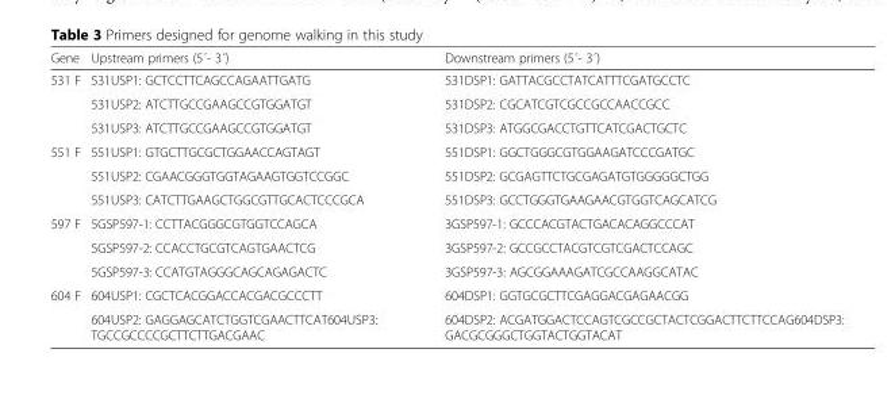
<table><thead><tr><td>Gene</td><td>Upstream primers (5´- 3´)</td><td>Downstream primers (5´- 3´)</td></tr></thead><tbody><tr><td rowspan="3">531 F</td><td>531USP1: GCTCCTTCAGCCAGAATTGATG</td><td>531DSP1: GATTACGCCTATCATTTCGATGCCTC</td></tr><tr><td>531USP2: ATCTTGCCGAAGCCGTGGATGT</td><td>531DSP2: CGCATCGTCGCCGCCAACCGCC</td></tr><tr><td>531USP3: ATCTTGCCGAAGCCGTGGATGT</td><td>531DSP3: ATGGCGACCTGTTCATCGACTGCTC</td></tr><tr><td rowspan="3">551 F</td><td>551USP1: GTGCTTGCGCTGGAACCAGTAGT</td><td>551DSP1: GGCTGGGCGTGGAAGATCCCGATGC</td></tr><tr><td>551USP2: CGAACGGGTGGTAGAAGTGGTCCGGC</td><td>551DSP2: GCGAGTTCTGCGAGATGTGGGGGCTGG</td></tr><tr><td>551USP3: CATCTTGAAGCTGGCGTTGCACTCCCGCA</td><td>551DSP3: GCCTGGGTGAAGAACGTGGTCAGCATCG</td></tr><tr><td rowspan="3">597 F</td><td>5GSP597-1: CCTTACGGGCGTGGTCCAGCA</td><td>3GSP597-1: GCCCACGTACTGACACAGGCCCAT</td></tr><tr><td>5GSP597-2: CCACCTGCGTCAGTGAACTCG</td><td>3GSP597-2: GCCGCCTACGTCGTCGACTCCAGC</td></tr><tr><td>5GSP597-3: CCATGTAGGGCAGCAGAGACTC</td><td>3GSP597-3: AGCGGAAAGATCGCCAAGGCATAC</td></tr><tr><td rowspan="2">604 F</td><td>604USP1: CGCTCACGGACCACGACGCCCTT</td><td>604DSP1: GGTGCGCTTCGAGGACGAGAACGG</td></tr><tr><td>604USP2: GAGGAGCATCTGGTCGAACTTCAT604USP3: TGCCGCCCCGCTTCTTGACGAAC</td><td>604DSP2: ACGATGGACTCCAGTCGCCGCTACTCGGACTTCTTCCAG604DSP3: GACGCGGGCTGGTACTGGTACAT</td></tr></tbody></table>